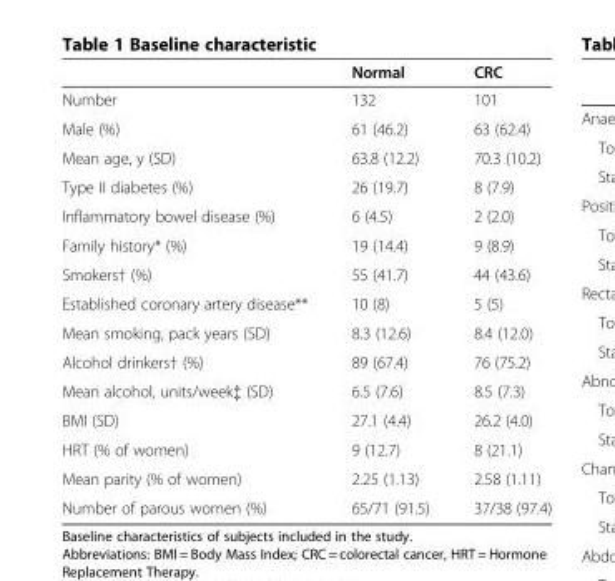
<table><thead><tr><td></td><td>Normal</td><td>CRC</td></tr></thead><tbody><tr><td>Number</td><td>132</td><td>101</td></tr><tr><td>Male (%)</td><td>61 (46.2)</td><td>63 (62.4)</td></tr><tr><td>Mean age, y (SD)</td><td>63.8 (12.2)</td><td>70.3 (10.2)</td></tr><tr><td>Type II diabetes (%)</td><td>26 (19.7)</td><td>8 (7.9)</td></tr><tr><td>Inflammatory bowel disease (%)</td><td>6 (4.5)</td><td>2 (2.0)</td></tr><tr><td>Family history* (%)</td><td>19 (14.4)</td><td>9 (8.9)</td></tr><tr><td>Smokers† (%)</td><td>55 (41.7)</td><td>44 (43.6)</td></tr><tr><td>Established coronary artery disease**</td><td>10 (8)</td><td>5 (5)</td></tr><tr><td>Mean smoking, pack years (SD)</td><td>8.3 (12.6)</td><td>8.4 (12.0)</td></tr><tr><td>Alcohol drinkers† (%)</td><td>89 (67.4)</td><td>76 (75.2)</td></tr><tr><td>Mean alcohol, units/week‡ (SD)</td><td>6.5 (7.6)</td><td>8.5 (7.3)</td></tr><tr><td>BMI (SD)</td><td>27.1 (4.4)</td><td>26.2 (4.0)</td></tr><tr><td>HRT (% of women)</td><td>9 (12.7)</td><td>8 (21.1)</td></tr><tr><td>Mean parity (% of women)</td><td>2.25 (1.13)</td><td>2.58 (1.11)</td></tr><tr><td>Number of parous women (%)</td><td>65/71 (91.5)</td><td>37/38 (97.4)</td></tr></tbody></table>